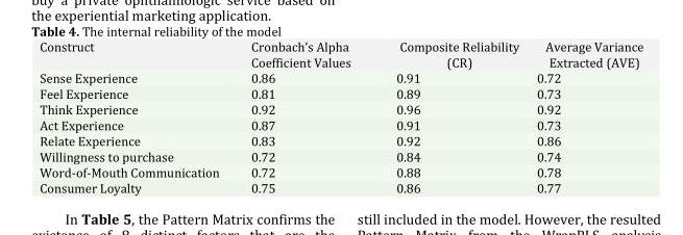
<table><tbody><tr><td>Construct</td><td>Cronbach’s Alpha Coefficient Values</td><td>Composite Reliability (CR)</td><td>Average Variance Extracted (AVE)</td></tr><tr><td>Sense Experience</td><td>0.86</td><td>0.91</td><td>0.72</td></tr><tr><td>Feel Experience</td><td>0.81</td><td>0.89</td><td>0.73</td></tr><tr><td>Think Experience</td><td>0.92</td><td>0.96</td><td>0.92</td></tr><tr><td>Act Experience</td><td>0.87</td><td>0.91</td><td>0.73</td></tr><tr><td>Relate Experience</td><td>0.83</td><td>0.92</td><td>0.86</td></tr><tr><td>Willingness to purchase</td><td>0.72</td><td>0.84</td><td>0.74</td></tr><tr><td>Word-of-Mouth Communication</td><td>0.72</td><td>0.88</td><td>0.78</td></tr><tr><td>Consumer Loyalty</td><td>0.75</td><td>0.86</td><td>0.77</td></tr></tbody></table>